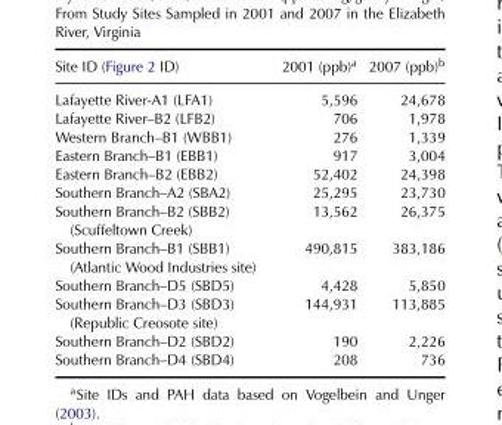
<table><thead><tr><td>Site ID (Figure 2 ID)</td><td>2001 (ppb)<sup>a</sup></td><td>2007 (ppb)<sup>b</sup></td></tr></thead><tbody><tr><td>Lafayette River-A1 (LFA1)</td><td>5,596</td><td>24,678</td></tr><tr><td>Lafayette River–B2 (LFB2)</td><td>706</td><td>1,978</td></tr><tr><td>Western Branch–B1 (WBB1)</td><td>276</td><td>1,339</td></tr><tr><td>Eastern Branch–B1 (EBB1)</td><td>917</td><td>3,004</td></tr><tr><td>Eastern Branch–B2 (EBB2)</td><td>52,402</td><td>24,398</td></tr><tr><td>Southern Branch–A2 (SBA2)</td><td>25,295</td><td>23,730</td></tr><tr><td>Southern Branch–B2 (SBB2) (Scuffeltown Creek)</td><td>13,562</td><td>26,375</td></tr><tr><td>Southern Branch–B1 (SBB1) (Atlantic Wood Industries site)</td><td>490,815</td><td>383,186</td></tr><tr><td>Southern Branch–D5 (SBD5)</td><td>4,428</td><td>5,850</td></tr><tr><td>Southern Branch–D3 (SBD3) (Republic Creosote site)</td><td>144,931</td><td>113,885</td></tr><tr><td>Southern Branch–D2 (SBD2)</td><td>190</td><td>2,226</td></tr><tr><td>Southern Branch–D4 (SBD4)</td><td>208</td><td>736</td></tr></tbody></table>